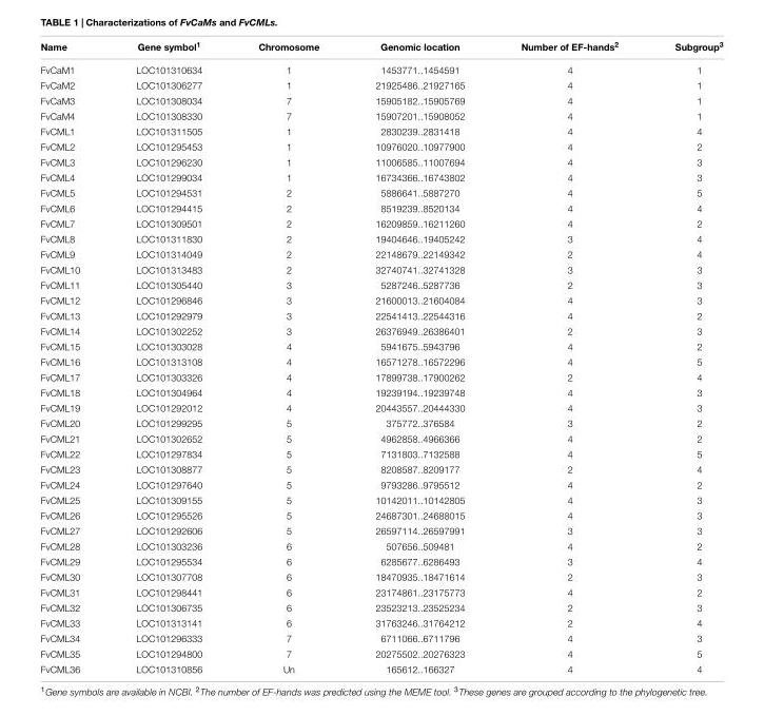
<table><thead><tr><td>Name</td><td>Gene symbol<sup>1</sup></td><td>Chromosome</td><td>Genomic location</td><td>Number of EF-hands<sup>2</sup></td><td>Subgroup<sup>3</sup></td></tr></thead><tbody><tr><td>FvCaM1</td><td>LOC101310634</td><td>1</td><td>1453771..1454591</td><td>4</td><td>1</td></tr><tr><td>FvCaM2</td><td>LOC101306277</td><td>1</td><td>21925486..21927165</td><td>4</td><td>1</td></tr><tr><td>FvCaM3</td><td>LOC101308034</td><td>7</td><td>15905182..15905769</td><td>4</td><td>1</td></tr><tr><td>FvCaM4</td><td>LOC101308330</td><td>7</td><td>15907201..15908052</td><td>4</td><td>1</td></tr><tr><td>FvCML1</td><td>LOC101311505</td><td>1</td><td>2830239..2831418</td><td>4</td><td>4</td></tr><tr><td>FvCML2</td><td>LOC101295453</td><td>1</td><td>10976020..10977900</td><td>4</td><td>2</td></tr><tr><td>FvCML3</td><td>LOC101296230</td><td>1</td><td>11006585..11007694</td><td>4</td><td>3</td></tr><tr><td>FvCML4</td><td>LOC101299034</td><td>1</td><td>16734366..16743802</td><td>4</td><td>3</td></tr><tr><td>FvCML5</td><td>LOC101294531</td><td>2</td><td>5886641..5887270</td><td>4</td><td>5</td></tr><tr><td>FvCML6</td><td>LOC101294415</td><td>2</td><td>8519239..8520134</td><td>4</td><td>4</td></tr><tr><td>FvCML7</td><td>LOC101309501</td><td>2</td><td>16209859..16211260</td><td>4</td><td>2</td></tr><tr><td>FvCML8</td><td>LOC101311830</td><td>2</td><td>19404646..19405242</td><td>3</td><td>4</td></tr><tr><td>FvCML9</td><td>LOC101314049</td><td>2</td><td>22148679..22149342</td><td>2</td><td>4</td></tr><tr><td>FvCML10</td><td>LOC101313483</td><td>2</td><td>32740741..32741328</td><td>3</td><td>3</td></tr><tr><td>FvCML11</td><td>LOC101305440</td><td>3</td><td>5287246..5287736</td><td>2</td><td>3</td></tr><tr><td>FvCML12</td><td>LOC101296846</td><td>3</td><td>21600013..21604084</td><td>4</td><td>3</td></tr><tr><td>FvCML13</td><td>LOC101292979</td><td>3</td><td>22541413..22544316</td><td>4</td><td>2</td></tr><tr><td>FvCML14</td><td>LOC101302252</td><td>3</td><td>26376949..26386401</td><td>2</td><td>3</td></tr><tr><td>FvCML15</td><td>LOC101303028</td><td>4</td><td>5941675..5943796</td><td>4</td><td>2</td></tr><tr><td>FvCML16</td><td>LOC101313108</td><td>4</td><td>16571278..16572296</td><td>4</td><td>5</td></tr><tr><td>FvCML17</td><td>LOC101303326</td><td>4</td><td>17899738..17900262</td><td>2</td><td>4</td></tr><tr><td>FvCML18</td><td>LOC101304964</td><td>4</td><td>19239194..19239748</td><td>4</td><td>3</td></tr><tr><td>FvCML19</td><td>LOC101292012</td><td>4</td><td>20443557..20444330</td><td>4</td><td>3</td></tr><tr><td>FvCML20</td><td>LOC101299295</td><td>5</td><td>375772..376584</td><td>3</td><td>2</td></tr><tr><td>FvCML21</td><td>LOC101302652</td><td>5</td><td>4962858..4966366</td><td>4</td><td>2</td></tr><tr><td>FvCML22</td><td>LOC101297834</td><td>5</td><td>7131803..7132588</td><td>4</td><td>5</td></tr><tr><td>FvCML23</td><td>LOC101308877</td><td>5</td><td>8208587..8209177</td><td>2</td><td>4</td></tr><tr><td>FvCML24</td><td>LOC101297640</td><td>5</td><td>9793286..9795512</td><td>4</td><td>2</td></tr><tr><td>FvCML25</td><td>LOC101309155</td><td>5</td><td>10142011..10142805</td><td>4</td><td>3</td></tr><tr><td>FvCML26</td><td>LOC101295526</td><td>5</td><td>24687301..24688015</td><td>4</td><td>3</td></tr><tr><td>FvCML27</td><td>LOC101292606</td><td>5</td><td>26597114..26597991</td><td>3</td><td>3</td></tr><tr><td>FvCML28</td><td>LOC101303236</td><td>6</td><td>507656..509481</td><td>4</td><td>2</td></tr><tr><td>FvCML29</td><td>LOC101295534</td><td>6</td><td>6285677..6286493</td><td>3</td><td>4</td></tr><tr><td>FvCML30</td><td>LOC101307708</td><td>6</td><td>18470935..18471614</td><td>2</td><td>3</td></tr><tr><td>FvCML31</td><td>LOC101298441</td><td>6</td><td>23174861..23175773</td><td>4</td><td>2</td></tr><tr><td>FvCML32</td><td>LOC101306735</td><td>6</td><td>23523213..23525234</td><td>2</td><td>3</td></tr><tr><td>FvCML33</td><td>LOC101313141</td><td>6</td><td>31763246..31764212</td><td>2</td><td>4</td></tr><tr><td>FvCML34</td><td>LOC101296333</td><td>7</td><td>6711066..6711796</td><td>4</td><td>3</td></tr><tr><td>FvCML35</td><td>LOC101294800</td><td>7</td><td>20275502..20276323</td><td>4</td><td>5</td></tr><tr><td>FvCML36</td><td>LOC101310856</td><td>Un</td><td>165612..166327</td><td>4</td><td>4</td></tr></tbody></table>